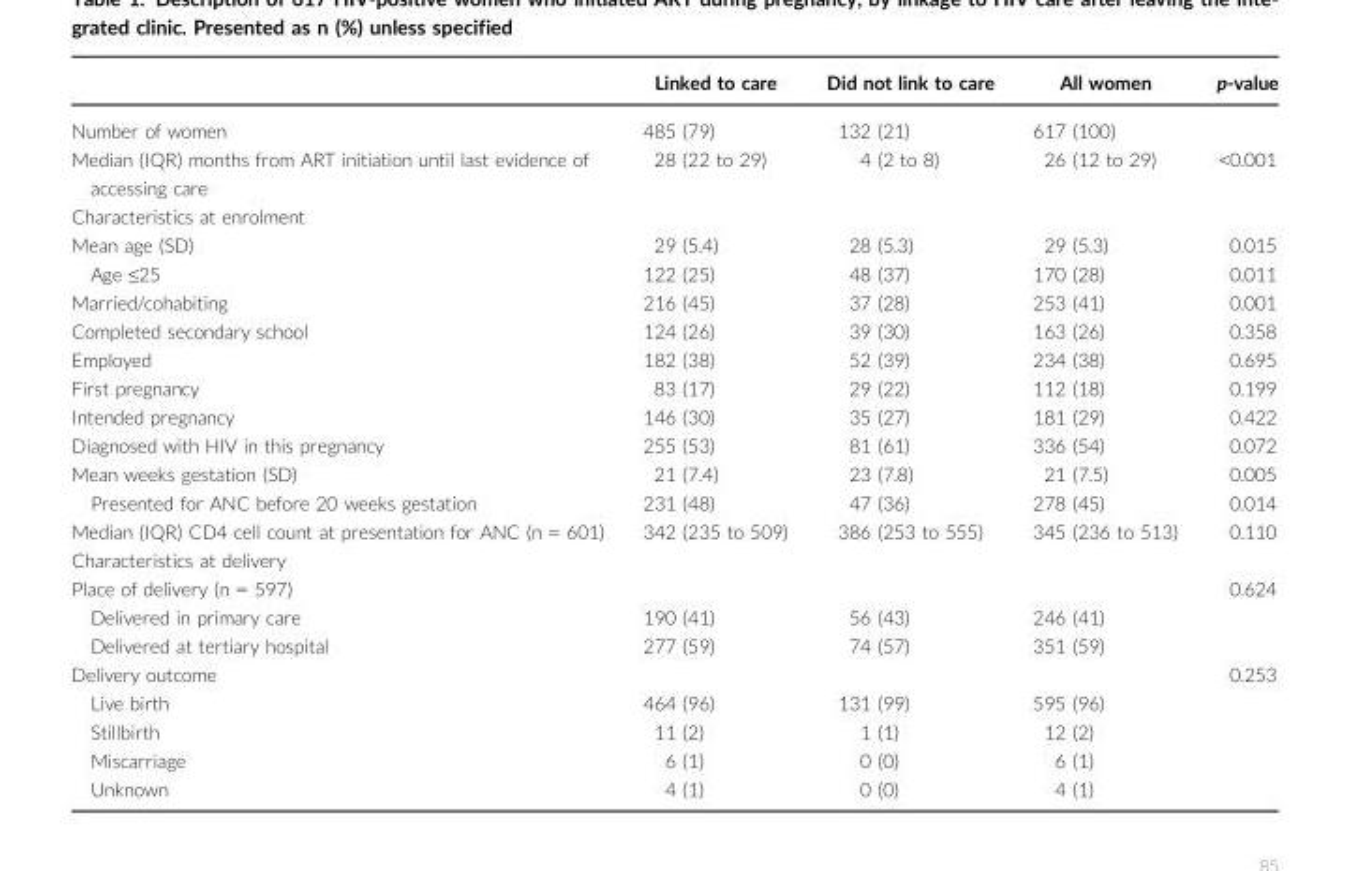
<table><thead><tr><td></td><td>Linked to care</td><td>Did not link to care</td><td>All women</td><td>p-value</td></tr></thead><tbody><tr><td>Number of women</td><td>485 (79)</td><td>132 (21)</td><td>617 (100)</td><td></td></tr><tr><td>Median (IQR) months from ART initiation until last evidence of accessing care</td><td>28 (22 to 29)</td><td>4 (2 to 8)</td><td>26 (12 to 29)</td><td>&lt;0.001</td></tr><tr><td colspan="5">Characteristics at enrolment</td></tr><tr><td>Mean age (SD)</td><td>29 (5.4)</td><td>28 (5.3)</td><td>29 (5.3)</td><td>0.015</td></tr><tr><td>Age ≤25</td><td>122 (25)</td><td>48 (37)</td><td>170 (28)</td><td>0.011</td></tr><tr><td>Married/cohabiting</td><td>216 (45)</td><td>37 (28)</td><td>253 (41)</td><td>0.001</td></tr><tr><td>Completed secondary school</td><td>124 (26)</td><td>39 (30)</td><td>163 (26)</td><td>0.358</td></tr><tr><td>Employed</td><td>182 (38)</td><td>52 (39)</td><td>234 (38)</td><td>0.695</td></tr><tr><td>First pregnancy</td><td>83 (17)</td><td>29 (22)</td><td>112 (18)</td><td>0.199</td></tr><tr><td>Intended pregnancy</td><td>146 (30)</td><td>35 (27)</td><td>181 (29)</td><td>0.422</td></tr><tr><td>Diagnosed with HIV in this pregnancy</td><td>255 (53)</td><td>81 (61)</td><td>336 (54)</td><td>0.072</td></tr><tr><td>Mean weeks gestation (SD)</td><td>21 (7.4)</td><td>23 (7.8)</td><td>21 (7.5)</td><td>0.005</td></tr><tr><td>Presented for ANC before 20 weeks gestation</td><td>231 (48)</td><td>47 (36)</td><td>278 (45)</td><td>0.014</td></tr><tr><td>Median (IQR) CD4 cell count at presentation for ANC (n = 601)</td><td>342 (235 to 509)</td><td>386 (253 to 555)</td><td>345 (236 to 513)</td><td>0.110</td></tr><tr><td colspan="5">Characteristics at delivery</td></tr><tr><td>Place of delivery (n = 597)</td><td></td><td></td><td></td><td>0.624</td></tr><tr><td>Delivered in primary care</td><td>190 (41)</td><td>56 (43)</td><td>246 (41)</td><td></td></tr><tr><td>Delivered at tertiary hospital</td><td>277 (59)</td><td>74 (57)</td><td>351 (59)</td><td></td></tr><tr><td colspan="4">Delivery outcome</td><td>0.253</td></tr><tr><td>Live birth</td><td>464 (96)</td><td>131 (99)</td><td>595 (96)</td><td></td></tr><tr><td>Stillbirth</td><td>11 (2)</td><td>1 (1)</td><td>12 (2)</td><td></td></tr><tr><td>Miscarriage</td><td>6 (1)</td><td>0 (0)</td><td>6 (1)</td><td></td></tr><tr><td>Unknown</td><td>4 (1)</td><td>0 (0)</td><td>4 (1)</td><td></td></tr></tbody></table>